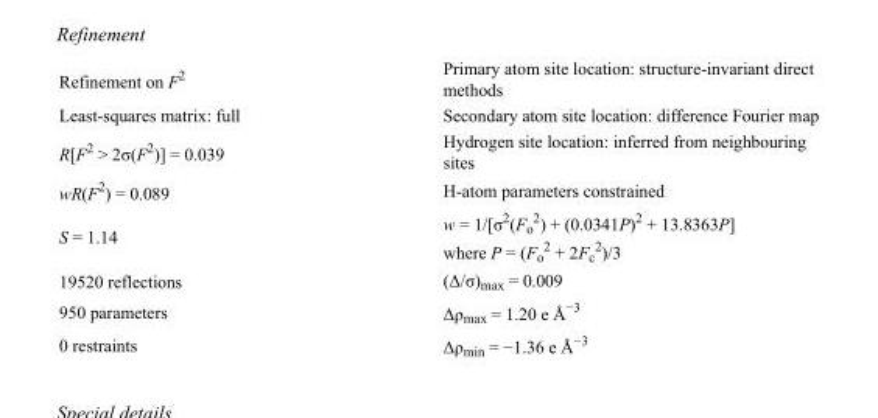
<table><tbody><tr><td>Refinement on F<sup>2</sup></td><td>Primary atom site location: structure-invariant direct methods</td></tr><tr><td>Least-squares matrix: full</td><td>Secondary atom site location: difference Fourier map</td></tr><tr><td>R[F<sup>2</sup> &gt; 2σ(F<sup>2</sup>)] = 0.039</td><td>Hydrogen site location: inferred from neighbouring sites</td></tr><tr><td>wR(F<sup>2</sup>) = 0.089</td><td>H-atom parameters constrained</td></tr><tr><td>S = 1.14</td><td>w = 1/[σ<sup>2</sup>(F<sub>o</sub> <sup>2</sup>) + (0.0341P)<sup>2</sup> + 13.8363P] where P = (F<sub>o</sub> <sup>2</sup> + 2F<sub>c</sub> <sup>2</sup>)/3</td></tr><tr><td>19520 reflections</td><td>(Δ/σ)<sub>max</sub> = 0.009</td></tr><tr><td>950 parameters</td><td>Δρ<sub>max</sub> = 1.20 e Å<sup>−3</sup></td></tr><tr><td>0 restraints</td><td>Δρ<sub>min</sub> = −1.36 e Å<sup>−3</sup></td></tr></tbody></table>